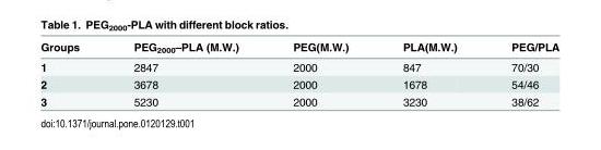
<table><thead><tr><td>Groups</td><td>PEG<sub>2000</sub>–PLA (M.W.)</td><td>PEG(M.W.)</td><td>PLA(M.W.)</td><td>PEG/PLA</td></tr></thead><tbody><tr><td>1</td><td>2847</td><td>2000</td><td>847</td><td>70/30</td></tr><tr><td>2</td><td>3678</td><td>2000</td><td>1678</td><td>54/46</td></tr><tr><td>3</td><td>5230</td><td>2000</td><td>3230</td><td>38/62</td></tr></tbody></table>